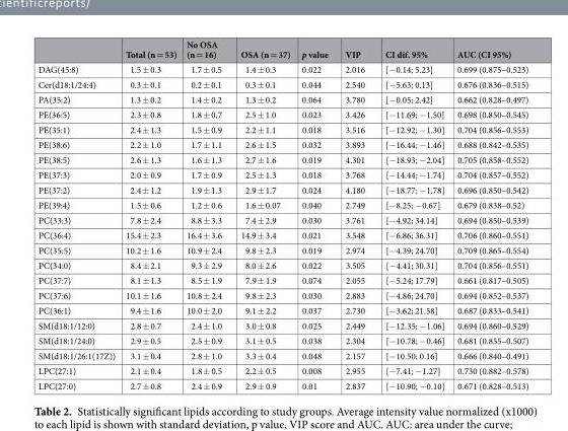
<table><thead><tr><td></td><td>Total (n = 53)</td><td>No OSA (n = 16)</td><td>OSA (n = 37)</td><td>p value</td><td>VIP</td><td>CI dif. 95%</td><td>AUC (CI 95%)</td></tr></thead><tbody><tr><td>DAG(45:8)</td><td>1.5 ± 0.3</td><td>1.7 ± 0.5</td><td>1.4 ± 0.3</td><td>0.022</td><td>2.016</td><td>[−0.14; 5.23]</td><td>0.699 (0.875–0.523)</td></tr><tr><td>Cer(d18:1/24:4)</td><td>0.3 ± 0.1</td><td>0.2 ± 0.1</td><td>0.3 ± 0.1</td><td>0.044</td><td>2.540</td><td>[−5.63; 0.13]</td><td>0.676 (0.836–0.515)</td></tr><tr><td>PA(35:2)</td><td>1.3 ± 0.2</td><td>1.4 ± 0.2</td><td>1.3 ± 0.2</td><td>0.064</td><td>3.780</td><td>[−0.05; 2.42]</td><td>0.662 (0.828–0.497)</td></tr><tr><td>PE(36:5)</td><td>2.3 ± 0.8</td><td>1.8 ± 0.7</td><td>2.5 ± 1.0</td><td>0.023</td><td>3.426</td><td>[−11.69; −1.50]</td><td>0.698 (0.850–0.545)</td></tr><tr><td>PE(35:1)</td><td>2.4 ± 1.3</td><td>1.5 ± 0.9</td><td>2.2 ± 1.1</td><td>0.018</td><td>3.516</td><td>[−12.92; −1.30]</td><td>0.704 (0.856–0.553)</td></tr><tr><td>PE(38:6)</td><td>2.2 ± 1.0</td><td>1.7 ± 1.1</td><td>2.6 ± 1.5</td><td>0.032</td><td>3.893</td><td>[−16.44; −1.46]</td><td>0.688 (0.842–0.535)</td></tr><tr><td>PE(38:5)</td><td>2.6 ± 1.3</td><td>1.6 ± 1.3</td><td>2.7 ± 1.6</td><td>0.019</td><td>4.301</td><td>[−18.93; −2.04]</td><td>0.705 (0.858–0.552)</td></tr><tr><td>PE(37:3)</td><td>2.0 ± 0.9</td><td>1.7 ± 0.9</td><td>2.5 ± 1.3</td><td>0.018</td><td>3.768</td><td>[−14.44; −1.74]</td><td>0.704 (0.857–0.552)</td></tr><tr><td>PE(37:2)</td><td>2.4 ± 1.2</td><td>1.9 ± 1.3</td><td>2.9 ± 1.7</td><td>0.024</td><td>4.180</td><td>[−18.77; −1.78]</td><td>0.696 (0.850–0.542)</td></tr><tr><td>PE(39:4)</td><td>1.5 ± 0.6</td><td>1.2 ± 0.6</td><td>1.6 ± 0.07</td><td>0.040</td><td>2.749</td><td>[−8.25; −0.67]</td><td>0.679 (0.838–0.52)</td></tr><tr><td>PC(33:3)</td><td>7.8 ± 2.4</td><td>8.8 ± 3.3</td><td>7.4 ± 2.9</td><td>0.030</td><td>3.761</td><td>[−4.92; 34.14]</td><td>0.694 (0.850–0.539)</td></tr><tr><td>PC(36:4)</td><td>15.4 ± 2.3</td><td>16.4 ± 3.6</td><td>14.9 ± 3.4</td><td>0.021</td><td>3.548</td><td>[−6.86; 36.31]</td><td>0.706 (0.860–0.551)</td></tr><tr><td>PC(35:5)</td><td>10.2 ± 1.6</td><td>10.9 ± 2.4</td><td>9.8 ± 2.3</td><td>0.019</td><td>2.974</td><td>[−4.39; 24.70]</td><td>0.709 (0.865–0.554)</td></tr><tr><td>PC(34:0)</td><td>8.4 ± 2.1</td><td>9.3 ± 2.9</td><td>8.0 ± 2.6</td><td>0.022</td><td>3.505</td><td>[−4.41; 30.31]</td><td>0.704 (0.856–0.551)</td></tr><tr><td>PC(37:7)</td><td>8.1 ± 1.3</td><td>8.5 ± 1.9</td><td>7.9 ± 1.9</td><td>0.074</td><td>2.055</td><td>[−5.24; 17.79]</td><td>0.661 (0.817–0.505)</td></tr><tr><td>PC(37:6)</td><td>10.1 ± 1.6</td><td>10.8 ± 2.4</td><td>9.8 ± 2.3</td><td>0.030</td><td>2.883</td><td>[−4.86; 24.70]</td><td>0.694 (0.852–0.537)</td></tr><tr><td>PC(36:1)</td><td>9.4 ± 1.6</td><td>10.0 ± 2.0</td><td>9.1 ± 2.2</td><td>0.037</td><td>2.730</td><td>[−3.62; 21.58]</td><td>0.687 (0.833–0.541)</td></tr><tr><td>SM(d18:1/12:0)</td><td>2.8 ± 0.7</td><td>2.4 ± 1.0</td><td>3.0 ± 0.8</td><td>0.025</td><td>2.449</td><td>[−12.35; −1.06]</td><td>0.694 (0.860–0.529)</td></tr><tr><td>SM(d18:1/24:0)</td><td>2.9 ± 0.5</td><td>2.5 ± 0.9</td><td>3.1 ± 0.5</td><td>0.038</td><td>2.304</td><td>[−10.78; −0.46]</td><td>0.681 (0.855–0.507)</td></tr><tr><td>SM(d18:1/26:1(17Z))</td><td>3.1 ± 0.4</td><td>2.8 ± 1.0</td><td>3.3 ± 0.4</td><td>0.048</td><td>2.157</td><td>[−10.50; 0.16]</td><td>0.666 (0.840–0.491)</td></tr><tr><td>LPC(27:1)</td><td>2.1 ± 0.4</td><td>1.8 ± 0.5</td><td>2.2 ± 0.5</td><td>0.008</td><td>2.955</td><td>[−7.41; −1.27]</td><td>0.730 (0.882–0.578)</td></tr><tr><td>LPC(27:0)</td><td>2.7 ± 0.8</td><td>2.4 ± 0.9</td><td>2.9 ± 0.9</td><td>0.01</td><td>2.837</td><td>[−10.90; −0.10]</td><td>0.671 (0.828–0.513)</td></tr></tbody></table>